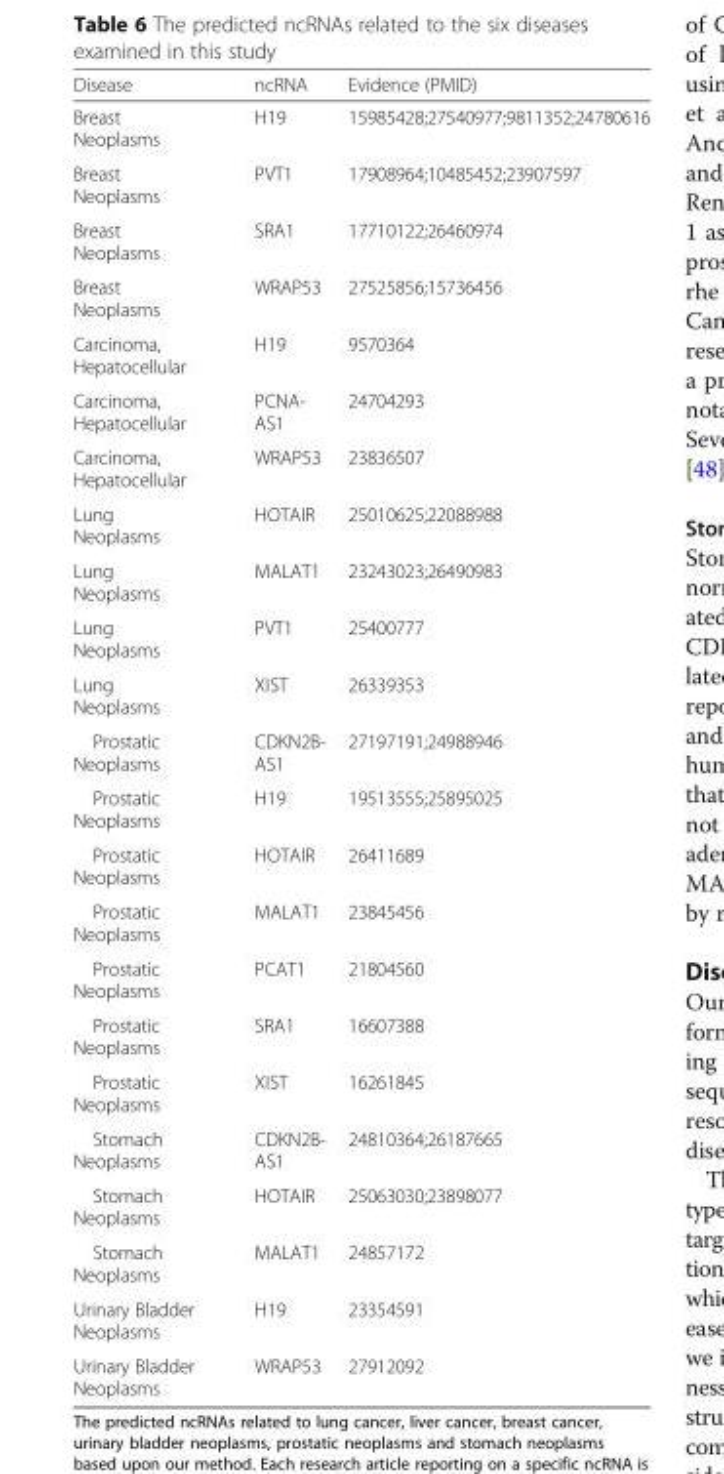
<table><thead><tr><td>Disease</td><td>ncRNA</td><td>Evidence (PMID)</td></tr></thead><tbody><tr><td>Breast Neoplasms</td><td>H19</td><td>15985428;27540977;9811352;24780616</td></tr><tr><td>Breast Neoplasms</td><td>PVT1</td><td>17908964;10485452;23907597</td></tr><tr><td>Breast Neoplasms</td><td>SRA1</td><td>17710122;26460974</td></tr><tr><td>Breast Neoplasms</td><td>WRAP53</td><td>27525856;15736456</td></tr><tr><td>Carcinoma, Hepatocellular</td><td>H19</td><td>9570364</td></tr><tr><td>Carcinoma, Hepatocellular</td><td>PCNA- AS1</td><td>24704293</td></tr><tr><td>Carcinoma, Hepatocellular</td><td>WRAP53</td><td>23836507</td></tr><tr><td>Lung Neoplasms</td><td>HOTAIR</td><td>25010625;22088988</td></tr><tr><td>Lung Neoplasms</td><td>MALAT1</td><td>23243023;26490983</td></tr><tr><td>Lung Neoplasms</td><td>PVT1</td><td>25400777</td></tr><tr><td>Lung Neoplasms</td><td>XIST</td><td>26339353</td></tr><tr><td>Prostatic Neoplasms</td><td>CDKN2B- AS1</td><td>27197191;24988946</td></tr><tr><td>Prostatic Neoplasms</td><td>H19</td><td>19513555;25895025</td></tr><tr><td>Prostatic Neoplasms</td><td>HOTAIR</td><td>26411689</td></tr><tr><td>Prostatic Neoplasms</td><td>MALAT1</td><td>23845456</td></tr><tr><td>Prostatic Neoplasms</td><td>PCAT1</td><td>21804560</td></tr><tr><td>Prostatic Neoplasms</td><td>SRA1</td><td>16607388</td></tr><tr><td>Prostatic Neoplasms</td><td>XIST</td><td>16261845</td></tr><tr><td>Stomach Neoplasms</td><td>CDKN2B- AS1</td><td>24810364;26187665</td></tr><tr><td>Stomach Neoplasms</td><td>HOTAIR</td><td>25063030;23898077</td></tr><tr><td>Stomach Neoplasms</td><td>MALAT1</td><td>24857172</td></tr><tr><td>Urinary Bladder Neoplasms</td><td>H19</td><td>23354591</td></tr><tr><td>Urinary Bladder Neoplasms</td><td>WRAP53</td><td>27912092</td></tr></tbody></table>